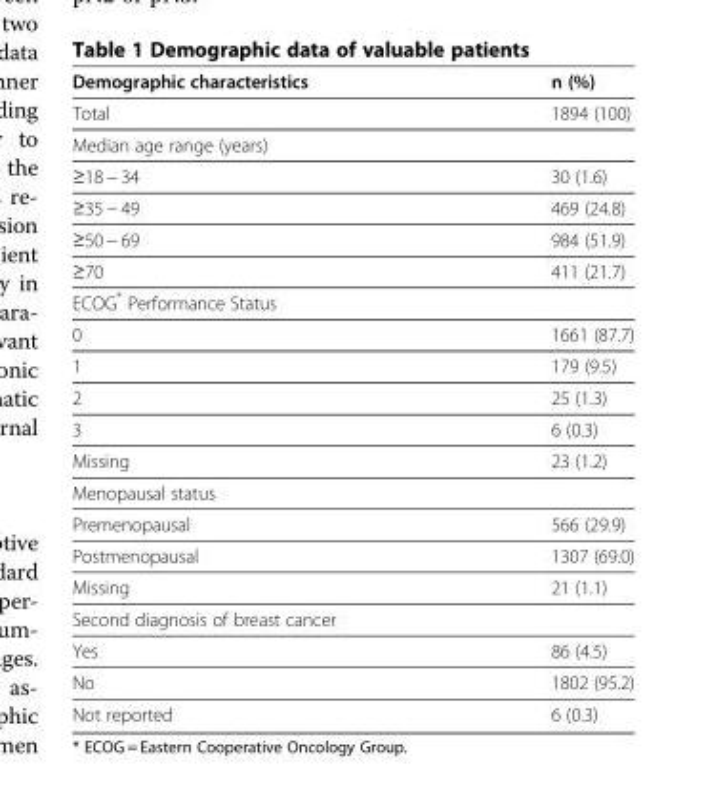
<table><thead><tr><td>Demographic characteristics</td><td>n (%)</td></tr></thead><tbody><tr><td>Total</td><td>1894 (100)</td></tr><tr><td colspan="2">Median age range (years)</td></tr><tr><td>≥18 − 34</td><td>30 (1.6)</td></tr><tr><td>≥35 − 49</td><td>469 (24.8)</td></tr><tr><td>≥50 − 69</td><td>984 (51.9)</td></tr><tr><td>≥70</td><td>411 (21.7)</td></tr><tr><td colspan="2">ECOG* Performance Status</td></tr><tr><td>0</td><td>1661 (87.7)</td></tr><tr><td>1</td><td>179 (9.5)</td></tr><tr><td>2</td><td>25 (1.3)</td></tr><tr><td>3</td><td>6 (0.3)</td></tr><tr><td>Missing</td><td>23 (1.2)</td></tr><tr><td colspan="2">Menopausal status</td></tr><tr><td>Premenopausal</td><td>566 (29.9)</td></tr><tr><td>Postmenopausal</td><td>1307 (69.0)</td></tr><tr><td>Missing</td><td>21 (1.1)</td></tr><tr><td colspan="2">Second diagnosis of breast cancer</td></tr><tr><td>Yes</td><td>86 (4.5)</td></tr><tr><td>No</td><td>1802 (95.2)</td></tr><tr><td>Not reported</td><td>6 (0.3)</td></tr></tbody></table>